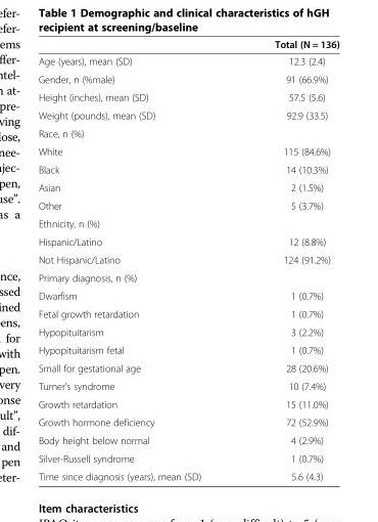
<table><thead><tr><td></td><td>Total (N = 136)</td></tr></thead><tbody><tr><td>Age (years), mean (SD)</td><td>12.3 (2.4)</td></tr><tr><td>Gender, n (%male)</td><td>91 (66.9%)</td></tr><tr><td>Height (inches), mean (SD)</td><td>57.5 (5.6)</td></tr><tr><td>Weight (pounds), mean (SD)</td><td>92.9 (33.5)</td></tr><tr><td colspan="2">Race, n (%)</td></tr><tr><td>White</td><td>115 (84.6%)</td></tr><tr><td>Black</td><td>14 (10.3%)</td></tr><tr><td>Asian</td><td>2 (1.5%)</td></tr><tr><td>Other</td><td>5 (3.7%)</td></tr><tr><td colspan="2">Ethnicity, n (%)</td></tr><tr><td>Hispanic/Latino</td><td>12 (8.8%)</td></tr><tr><td>Not Hispanic/Latino</td><td>124 (91.2%)</td></tr><tr><td colspan="2">Primary diagnosis, n (%)</td></tr><tr><td>Dwarfism</td><td>1 (0.7%)</td></tr><tr><td>Fetal growth retardation</td><td>1 (0.7%)</td></tr><tr><td>Hypopituitarism</td><td>3 (2.2%)</td></tr><tr><td>Hypopituitarism fetal</td><td>1 (0.7%)</td></tr><tr><td>Small for gestational age</td><td>28 (20.6%)</td></tr><tr><td>Turner&#x27;s syndrome</td><td>10 (7.4%)</td></tr><tr><td>Growth retardation</td><td>15 (11.0%)</td></tr><tr><td>Growth hormone deficiency</td><td>72 (52.9%)</td></tr><tr><td>Body height below normal</td><td>4 (2.9%)</td></tr><tr><td>Silver-Russell syndrome</td><td>1 (0.7%)</td></tr><tr><td>Time since diagnosis (years), mean (SD)</td><td>5.6 (4.3)</td></tr></tbody></table>